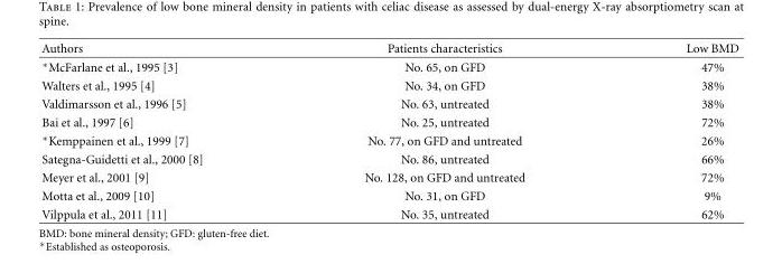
<table><thead><tr><td>Authors</td><td>Patients characteristics</td><td>Low BMD</td></tr></thead><tbody><tr><td>∗McFarlane et al., 1995 [3]</td><td>No. 65, on GFD</td><td>47%</td></tr><tr><td>Walters et al., 1995 [4]</td><td>No. 34, on GFD</td><td>38%</td></tr><tr><td>Valdimarsson et al., 1996 [5]</td><td>No. 63, untreated</td><td>38%</td></tr><tr><td>Bai et al., 1997 [6]</td><td>No. 25, untreated</td><td>72%</td></tr><tr><td>∗Kemppainen et al., 1999 [7]</td><td>No. 77, on GFD and untreated</td><td>26%</td></tr><tr><td>Sategna-Guidetti et al., 2000 [8]</td><td>No. 86, untreated</td><td>66%</td></tr><tr><td>Meyer et al., 2001 [9]</td><td>No. 128, on GFD and untreated</td><td>72%</td></tr><tr><td>Motta et al., 2009 [10]</td><td>No. 31, on GFD</td><td>9%</td></tr><tr><td>Vilppula et al., 2011 [11]</td><td>No. 35, untreated</td><td>62%</td></tr></tbody></table>